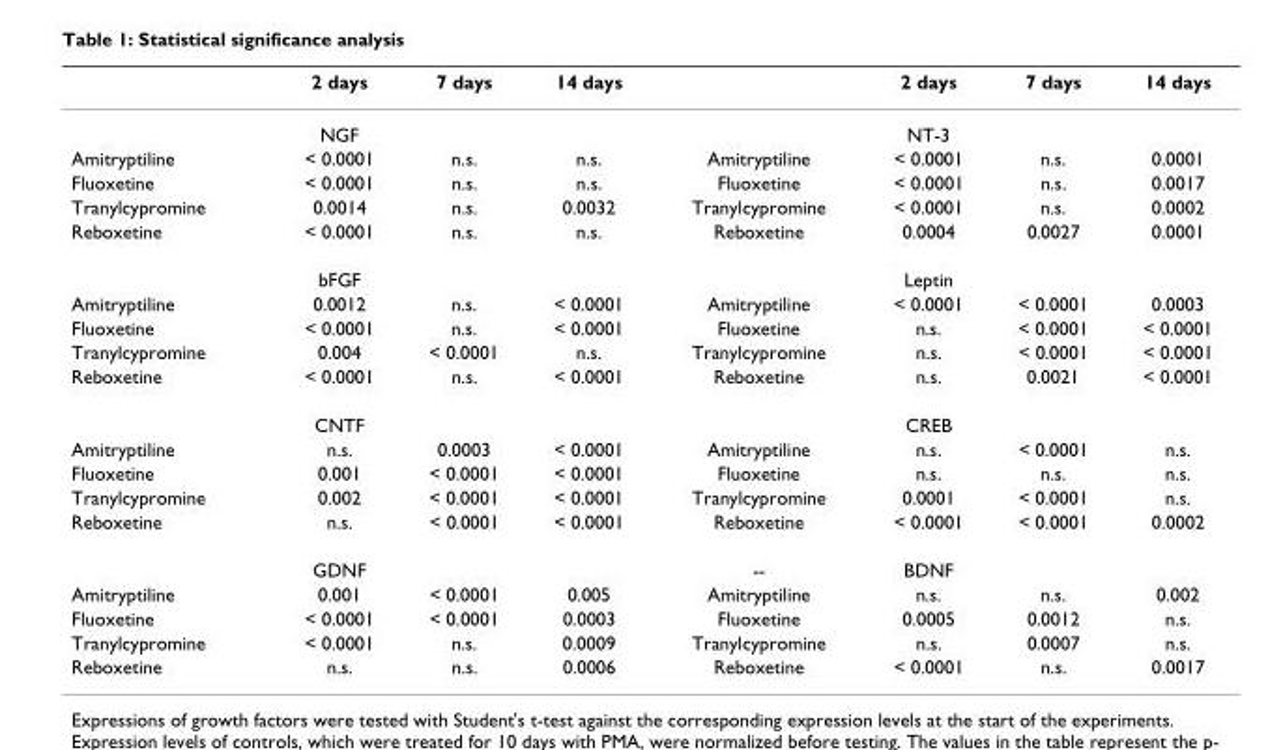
<table><thead><tr><td></td><td>2 days</td><td>7 days</td><td>14 days</td><td></td><td>2 days</td><td>7 days</td><td>14 days</td></tr></thead><tbody><tr><td></td><td>NGF</td><td></td><td></td><td></td><td>NT-3</td><td></td><td></td></tr><tr><td>Amitryptiline</td><td>&lt; 0.0001</td><td>n.s.</td><td>n.s.</td><td>Amitryptiline</td><td>&lt; 0.0001</td><td>n.s.</td><td>0.0001</td></tr><tr><td>Fluoxetine</td><td>&lt; 0.0001</td><td>n.s.</td><td>n.s.</td><td>Fluoxetine</td><td>&lt; 0.0001</td><td>n.s.</td><td>0.0017</td></tr><tr><td>Tranylcypromine</td><td>0.0014</td><td>n.s.</td><td>0.0032</td><td>Tranylcypromine</td><td>&lt; 0.0001</td><td>n.s.</td><td>0.0002</td></tr><tr><td rowspan="2">Reboxetine</td><td>&lt; 0.0001</td><td>n.s.</td><td>n.s.</td><td>Reboxetine</td><td>0.0004</td><td>0.0027</td><td>0.0001</td></tr><tr><td>bFGF</td><td></td><td></td><td></td><td>Leptin</td><td></td><td></td></tr><tr><td>Amitryptiline</td><td>0.0012</td><td>n.s.</td><td>&lt; 0.0001</td><td>Amitryptiline</td><td>&lt; 0.0001</td><td>&lt; 0.0001</td><td>0.0003</td></tr><tr><td>Fluoxetine</td><td>&lt; 0.0001</td><td>n.s.</td><td>&lt; 0.0001</td><td>Fluoxetine</td><td>n.s.</td><td>&lt; 0.0001</td><td>&lt; 0.0001</td></tr><tr><td>Tranylcypromine</td><td>0.004</td><td>&lt; 0.0001</td><td>n.s.</td><td>Tranylcypromine</td><td>n.s.</td><td>&lt; 0.0001</td><td>&lt; 0.0001</td></tr><tr><td rowspan="2">Reboxetine</td><td>&lt; 0.0001</td><td>n.s.</td><td>&lt; 0.0001</td><td>Reboxetine</td><td>n.s.</td><td>0.0021</td><td>&lt; 0.0001</td></tr><tr><td>CNTF</td><td></td><td></td><td></td><td>CREB</td><td></td><td></td></tr><tr><td>Amitryptiline</td><td>n.s.</td><td>0.0003</td><td>&lt; 0.0001</td><td>Amitryptiline</td><td>n.s.</td><td>&lt; 0.0001</td><td>n.s.</td></tr><tr><td>Fluoxetine</td><td>0.001</td><td>&lt; 0.0001</td><td>&lt; 0.0001</td><td>Fluoxetine</td><td>n.s.</td><td>n.s.</td><td>n.s.</td></tr><tr><td>Tranylcypromine</td><td>0.002</td><td>&lt; 0.0001</td><td>&lt; 0.0001</td><td>Tranylcypromine</td><td>0.0001</td><td>&lt; 0.0001</td><td>n.s.</td></tr><tr><td rowspan="2">Reboxetine</td><td>n.s.</td><td>&lt; 0.0001</td><td>&lt; 0.0001</td><td>Reboxetine</td><td>&lt; 0.0001</td><td>&lt; 0.0001</td><td>0.0002</td></tr><tr><td>GDNF</td><td></td><td></td><td>--</td><td>BDNF</td><td></td><td></td></tr><tr><td>Amitryptiline</td><td>0.001</td><td>&lt; 0.0001</td><td>0.005</td><td>Amitryptiline</td><td>n.s.</td><td>n.s.</td><td>0.002</td></tr><tr><td>Fluoxetine</td><td>&lt; 0.0001</td><td>&lt; 0.0001</td><td>0.0003</td><td>Fluoxetine</td><td>0.0005</td><td>0.0012</td><td>n.s.</td></tr><tr><td>Tranylcypromine</td><td>&lt; 0.0001</td><td>n.s.</td><td>0.0009</td><td>Tranylcypromine</td><td>n.s.</td><td>0.0007</td><td>n.s.</td></tr><tr><td>Reboxetine</td><td>n.s.</td><td>n.s.</td><td>0.0006</td><td>Reboxetine</td><td>&lt; 0.0001</td><td>n.s.</td><td>0.0017</td></tr></tbody></table>